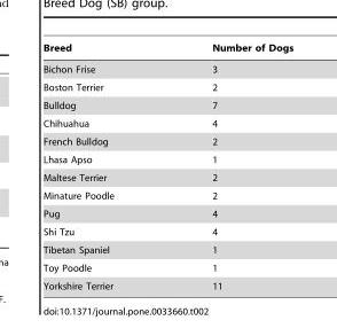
<table><thead><tr><td>Breed</td><td>Number of Dogs</td></tr></thead><tbody><tr><td>Bichon Frise</td><td>3</td></tr><tr><td>Boston Terrier</td><td>2</td></tr><tr><td>Bulldog</td><td>7</td></tr><tr><td>Chihuahua</td><td>4</td></tr><tr><td>French Bulldog</td><td>2</td></tr><tr><td>Lhasa Apso</td><td>1</td></tr><tr><td>Maltese Terrier</td><td>2</td></tr><tr><td>Minature Poodle</td><td>2</td></tr><tr><td>Pug</td><td>4</td></tr><tr><td>Shi Tzu</td><td>4</td></tr><tr><td>Tibetan Spaniel</td><td>1</td></tr><tr><td>Toy Poodle</td><td>1</td></tr><tr><td>Yorkshire Terrier</td><td>11</td></tr></tbody></table>